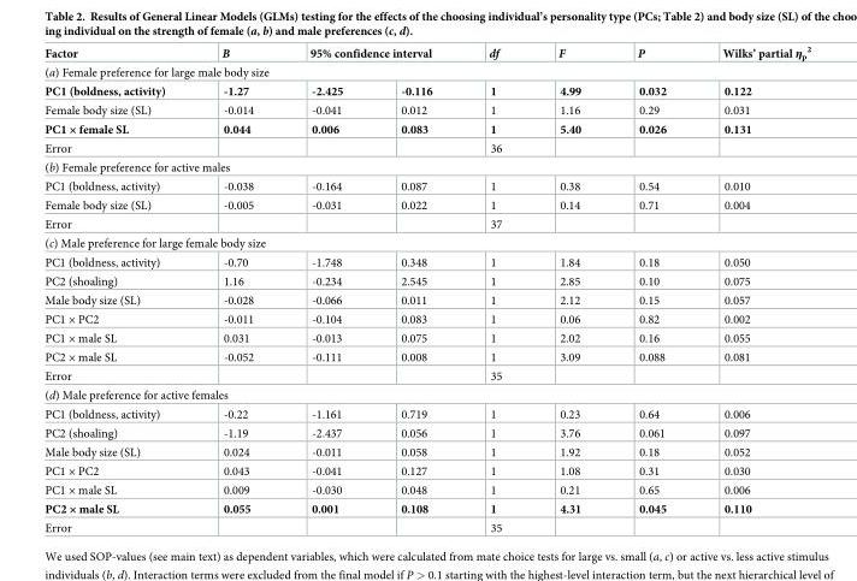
<table><thead><tr><td>Factor</td><td>B</td><td colspan="2">95% confidence interval</td><td>df</td><td>F</td><td>P</td><td>Wilks’ partial η<sub>p</sub> <sup>2</sup></td></tr><tr><td colspan="8">(a) Female preference for large male body size</td></tr><tr><td>PC1 (boldness, activity)</td><td>-1.27</td><td>-2.425</td><td>-0.116</td><td>1</td><td>4.99</td><td>0.032</td><td>0.122</td></tr></thead><tbody><tr><td>Female body size (SL)</td><td>-0.014</td><td>-0.041</td><td>0.012</td><td>1</td><td>1.16</td><td>0.29</td><td>0.031</td></tr><tr><td>PC1 × female SL</td><td>0.044</td><td>0.006</td><td>0.083</td><td>1</td><td>5.40</td><td>0.026</td><td>0.131</td></tr><tr><td>Error</td><td></td><td></td><td></td><td>36</td><td></td><td></td><td></td></tr><tr><td colspan="8">(b) Female preference for active males</td></tr><tr><td>PC1 (boldness, activity)</td><td>-0.038</td><td>-0.164</td><td>0.087</td><td>1</td><td>0.38</td><td>0.54</td><td>0.010</td></tr><tr><td>Female body size (SL)</td><td>-0.005</td><td>-0.031</td><td>0.022</td><td>1</td><td>0.14</td><td>0.71</td><td>0.004</td></tr><tr><td>Error</td><td></td><td></td><td></td><td>37</td><td></td><td></td><td></td></tr><tr><td colspan="8">(c) Male preference for large female body size</td></tr><tr><td>PC1 (boldness, activity)</td><td>-0.70</td><td>-1.748</td><td>0.348</td><td>1</td><td>1.84</td><td>0.18</td><td>0.050</td></tr><tr><td>PC2 (shoaling)</td><td>1.16</td><td>-0.234</td><td>2.545</td><td>1</td><td>2.85</td><td>0.10</td><td>0.075</td></tr><tr><td>Male body size (SL)</td><td>-0.028</td><td>-0.066</td><td>0.011</td><td>1</td><td>2.12</td><td>0.15</td><td>0.057</td></tr><tr><td>PC1 × PC2</td><td>-0.011</td><td>-0.104</td><td>0.083</td><td>1</td><td>0.06</td><td>0.82</td><td>0.002</td></tr><tr><td>PC1 × male SL</td><td>0.031</td><td>-0.013</td><td>0.075</td><td>1</td><td>2.02</td><td>0.16</td><td>0.055</td></tr><tr><td>PC2 × male SL</td><td>-0.052</td><td>-0.111</td><td>0.008</td><td>1</td><td>3.09</td><td>0.088</td><td>0.081</td></tr><tr><td>Error</td><td></td><td></td><td></td><td>35</td><td></td><td></td><td></td></tr><tr><td colspan="8">(d) Male preference for active females</td></tr><tr><td>PC1 (boldness, activity)</td><td>-0.22</td><td>-1.161</td><td>0.719</td><td>1</td><td>0.23</td><td>0.64</td><td>0.006</td></tr><tr><td>PC2 (shoaling)</td><td>-1.19</td><td>-2.437</td><td>0.056</td><td>1</td><td>3.76</td><td>0.061</td><td>0.097</td></tr><tr><td>Male body size (SL)</td><td>0.024</td><td>-0.011</td><td>0.058</td><td>1</td><td>1.92</td><td>0.18</td><td>0.052</td></tr><tr><td>PC1 × PC2</td><td>0.043</td><td>-0.041</td><td>0.127</td><td>1</td><td>1.08</td><td>0.31</td><td>0.030</td></tr><tr><td>PC1 × male SL</td><td>0.009</td><td>-0.030</td><td>0.048</td><td>1</td><td>0.21</td><td>0.65</td><td>0.006</td></tr><tr><td>PC2 × male SL</td><td>0.055</td><td>0.001</td><td>0.108</td><td>1</td><td>4.31</td><td>0.045</td><td>0.110</td></tr><tr><td>Error</td><td></td><td></td><td></td><td>35</td><td></td><td></td><td></td></tr></tbody></table>